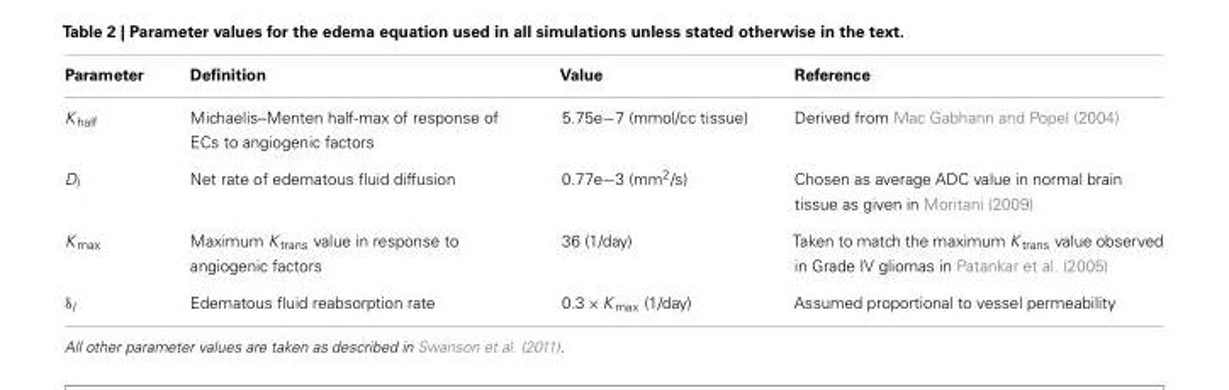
<table><thead><tr><td>Parameter</td><td>Definition</td><td>Value</td><td>Reference</td></tr></thead><tbody><tr><td>K <sub>half</sub></td><td>Michaelis–Menten half-max of response of ECs to angiogenic factors</td><td>5.75e−7 (mmol/cc tissue)</td><td>Derived from Mac Gabhann and Popel (2004)</td></tr><tr><td>D<sub>l</sub></td><td>Net rate of edematous fluid diffusion</td><td>0.77e−3 (mm<sup>2</sup>/s)</td><td>Chosen as average ADC value in normal brain tissue as given in Moritani (2009)</td></tr><tr><td>K <sub>max</sub></td><td>Maximum K <sub>trans</sub> value in response to angiogenic factors</td><td>36 (1/day)</td><td>Taken to match the maximum K <sub>trans</sub> value observed in Grade IV gliomas in Patankar et al. (2005)</td></tr><tr><td>δ<sub>I</sub></td><td>Edematous fluid reabsorption rate</td><td>0.3 × K <sub>max</sub> (1/day)</td><td>Assumed proportional to vessel permeability</td></tr></tbody></table>